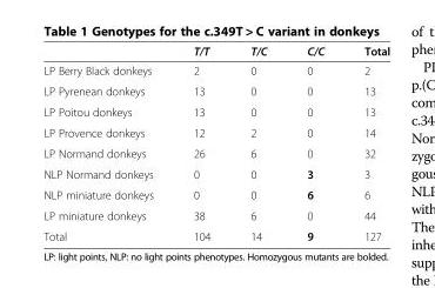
<table><thead><tr><td></td><td>T/T</td><td>T/C</td><td>C/C</td><td>Total</td></tr></thead><tbody><tr><td>LP Berry Black donkeys</td><td>2</td><td>0</td><td>0</td><td>2</td></tr><tr><td>LP Pyrenean donkeys</td><td>13</td><td>0</td><td>0</td><td>13</td></tr><tr><td>LP Poitou donkeys</td><td>13</td><td>0</td><td>0</td><td>13</td></tr><tr><td>LP Provence donkeys</td><td>12</td><td>2</td><td>0</td><td>14</td></tr><tr><td>LP Normand donkeys</td><td>26</td><td>6</td><td>0</td><td>32</td></tr><tr><td>NLP Normand donkeys</td><td>0</td><td>0</td><td>3</td><td>3</td></tr><tr><td>NLP miniature donkeys</td><td>0</td><td>0</td><td>6</td><td>6</td></tr><tr><td>LP miniature donkeys</td><td>38</td><td>6</td><td>0</td><td>44</td></tr><tr><td>Total</td><td>104</td><td>14</td><td>9</td><td>127</td></tr></tbody></table>